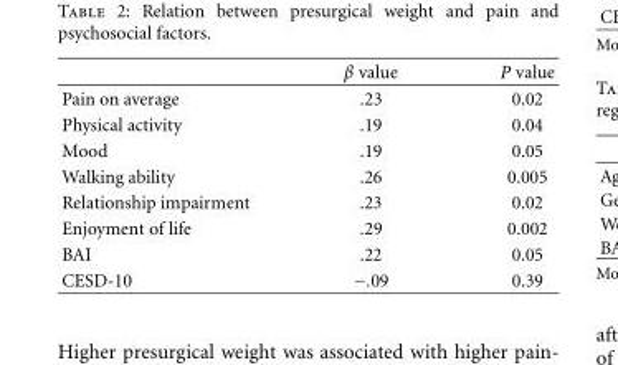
<table><thead><tr><td></td><td>β value</td><td>P value</td></tr></thead><tbody><tr><td>Pain on average</td><td>.23</td><td>0.02</td></tr><tr><td>Physical activity</td><td>.19</td><td>0.04</td></tr><tr><td>Mood</td><td>.19</td><td>0.05</td></tr><tr><td>Walking ability</td><td>.26</td><td>0.005</td></tr><tr><td>Relationship impairment</td><td>.23</td><td>0.02</td></tr><tr><td>Enjoyment of life</td><td>.29</td><td>0.002</td></tr><tr><td>BAI</td><td>.22</td><td>0.05</td></tr><tr><td>CESD-10</td><td>−.09</td><td>0.39</td></tr></tbody></table>